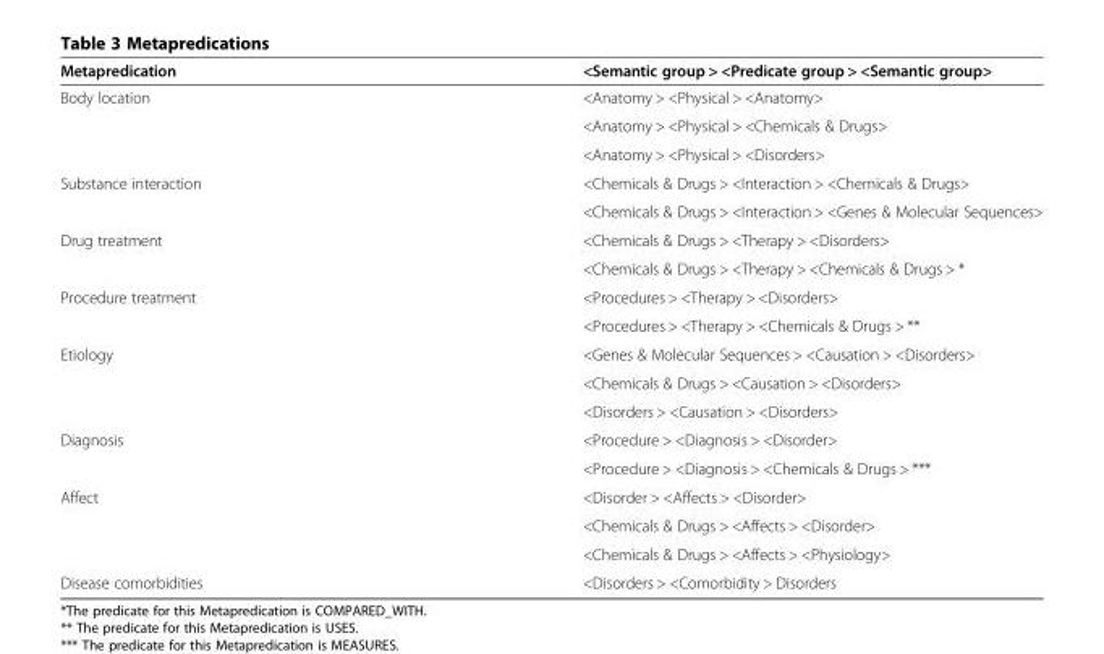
<table><thead><tr><td>Metapredication</td><td>&lt;Semantic group &gt; &lt;Predicate group &gt; &lt;Semantic group&gt;</td></tr></thead><tbody><tr><td rowspan="3">Body location</td><td>&lt;Anatomy &gt; &lt;Physical &gt; &lt;Anatomy&gt;</td></tr><tr><td>&lt;Anatomy &gt; &lt;Physical &gt; &lt;Chemicals &amp; Drugs&gt;</td></tr><tr><td>&lt;Anatomy &gt; &lt;Physical &gt; &lt;Disorders&gt;</td></tr><tr><td rowspan="2">Substance interaction</td><td>&lt;Chemicals &amp; Drugs &gt; &lt;Interaction &gt; &lt;Chemicals &amp; Drugs&gt;</td></tr><tr><td>&lt;Chemicals &amp; Drugs &gt; &lt;Interaction &gt; &lt;Genes &amp; Molecular Sequences&gt;</td></tr><tr><td rowspan="2">Drug treatment</td><td>&lt;Chemicals &amp; Drugs &gt; &lt;Therapy &gt; &lt;Disorders&gt;</td></tr><tr><td>&lt;Chemicals &amp; Drugs &gt; &lt;Therapy &gt; &lt;Chemicals &amp; Drugs &gt; *</td></tr><tr><td rowspan="2">Procedure treatment</td><td>&lt;Procedures &gt; &lt;Therapy &gt; &lt;Disorders&gt;</td></tr><tr><td>&lt;Procedures &gt; &lt;Therapy &gt; &lt;Chemicals &amp; Drugs &gt; **</td></tr><tr><td rowspan="3">Etiology</td><td>&lt;Genes &amp; Molecular Sequences &gt; &lt;Causation &gt; &lt;Disorders&gt;</td></tr><tr><td>&lt;Chemicals &amp; Drugs &gt; &lt;Causation &gt; &lt;Disorders&gt;</td></tr><tr><td>&lt;Disorders &gt; &lt;Causation &gt; &lt;Disorders&gt;</td></tr><tr><td rowspan="2">Diagnosis</td><td>&lt;Procedure &gt; &lt;Diagnosis &gt; &lt;Disorder&gt;</td></tr><tr><td>&lt;Procedure &gt; &lt;Diagnosis &gt; &lt;Chemicals &amp; Drugs &gt; ***</td></tr><tr><td rowspan="3">Affect</td><td>&lt;Disorder &gt; &lt;Affects &gt; &lt;Disorder&gt;</td></tr><tr><td>&lt;Chemicals &amp; Drugs &gt; &lt;Affects &gt; &lt;Disorder&gt;</td></tr><tr><td>&lt;Chemicals &amp; Drugs &gt; &lt;Affects &gt; &lt;Physiology&gt;</td></tr><tr><td>Disease comorbidities</td><td>&lt;Disorders &gt; &lt;Comorbidity &gt; Disorders</td></tr></tbody></table>